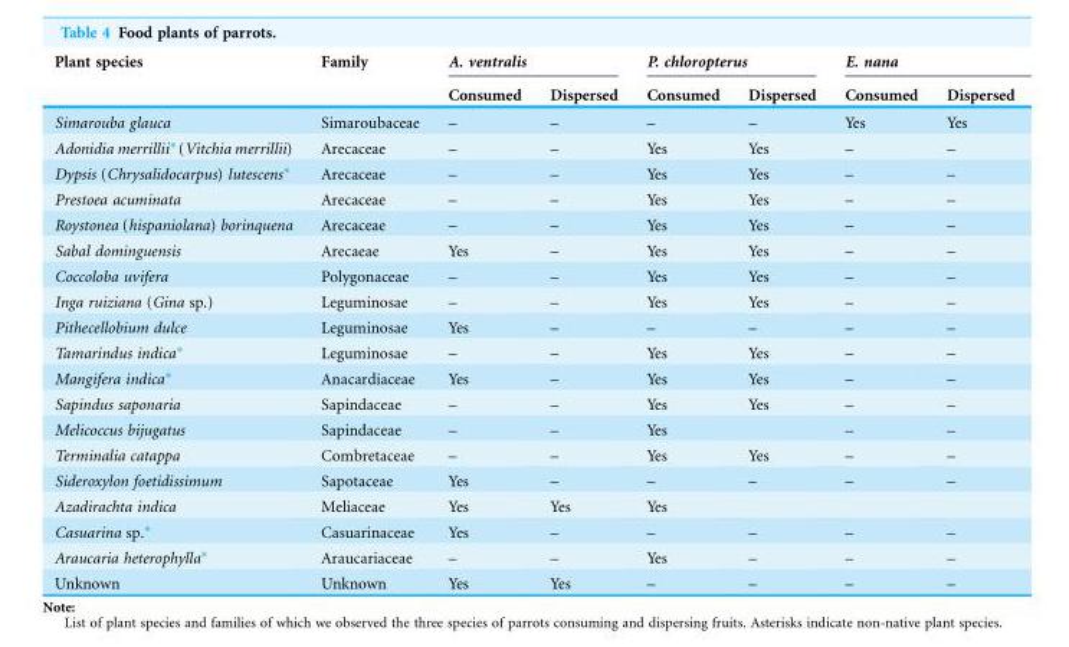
<table><thead><tr><td rowspan="2">Plant species</td><td rowspan="2">Family</td><td colspan="2">A. ventralis</td><td colspan="2">P. chloropterus</td><td colspan="2">E. nana</td></tr><tr><td>Consumed</td><td>Dispersed</td><td>Consumed</td><td>Dispersed</td><td>Consumed</td><td>Dispersed</td></tr></thead><tbody><tr><td>Simarouba glauca</td><td>Simaroubaceae</td><td>–</td><td>–</td><td>–</td><td>–</td><td>Yes</td><td>Yes</td></tr><tr><td>Adonidia merrillii* (Vitchia merrillii)</td><td>Arecaceae</td><td>–</td><td>–</td><td>Yes</td><td>Yes</td><td>–</td><td>–</td></tr><tr><td>Dypsis (Chrysalidocarpus) lutescens*</td><td>Arecaceae</td><td>–</td><td>–</td><td>Yes</td><td>Yes</td><td>–</td><td>–</td></tr><tr><td>Prestoea acuminata</td><td>Arecaceae</td><td>–</td><td>–</td><td>Yes</td><td>Yes</td><td>–</td><td>–</td></tr><tr><td>Roystonea (hispaniolana) borinquena</td><td>Arecaceae</td><td>–</td><td>–</td><td>Yes</td><td>Yes</td><td>–</td><td>–</td></tr><tr><td>Sabal dominguensis</td><td>Arecaeae</td><td>Yes</td><td>–</td><td>Yes</td><td>Yes</td><td>–</td><td>–</td></tr><tr><td>Coccoloba uvifera</td><td>Polygonaceae</td><td>–</td><td>–</td><td>Yes</td><td>Yes</td><td>–</td><td>–</td></tr><tr><td>Inga ruiziana (Gina sp.)</td><td>Leguminosae</td><td>–</td><td>–</td><td>Yes</td><td>Yes</td><td>–</td><td>–</td></tr><tr><td>Pithecellobium dulce</td><td>Leguminosae</td><td>Yes</td><td>–</td><td>–</td><td>–</td><td>–</td><td>–</td></tr><tr><td>Tamarindus indica*</td><td>Leguminosae</td><td>–</td><td>–</td><td>Yes</td><td>Yes</td><td>–</td><td>–</td></tr><tr><td>Mangifera indica*</td><td>Anacardiaceae</td><td>Yes</td><td>–</td><td>Yes</td><td>Yes</td><td>–</td><td>–</td></tr><tr><td>Sapindus saponaria</td><td>Sapindaceae</td><td>–</td><td>–</td><td>Yes</td><td>Yes</td><td>–</td><td>–</td></tr><tr><td>Melicoccus bijugatus</td><td>Sapindaceae</td><td>–</td><td>–</td><td>Yes</td><td></td><td>–</td><td>–</td></tr><tr><td>Terminalia catappa</td><td>Combretaceae</td><td>–</td><td>–</td><td>Yes</td><td>Yes</td><td>–</td><td>–</td></tr><tr><td>Sideroxylon foetidissimum</td><td>Sapotaceae</td><td>Yes</td><td>–</td><td>–</td><td>–</td><td>–</td><td>–</td></tr><tr><td>Azadirachta indica</td><td>Meliaceae</td><td>Yes</td><td>Yes</td><td>Yes</td><td></td><td></td><td></td></tr><tr><td>Casuarina sp.*</td><td>Casuarinaceae</td><td>Yes</td><td>–</td><td>–</td><td>–</td><td>–</td><td>–</td></tr><tr><td>Araucaria heterophylla*</td><td>Araucariaceae</td><td>–</td><td>–</td><td>Yes</td><td>–</td><td>–</td><td>–</td></tr><tr><td>Unknown</td><td>Unknown</td><td>Yes</td><td>Yes</td><td>–</td><td>–</td><td>–</td><td>–</td></tr></tbody></table>